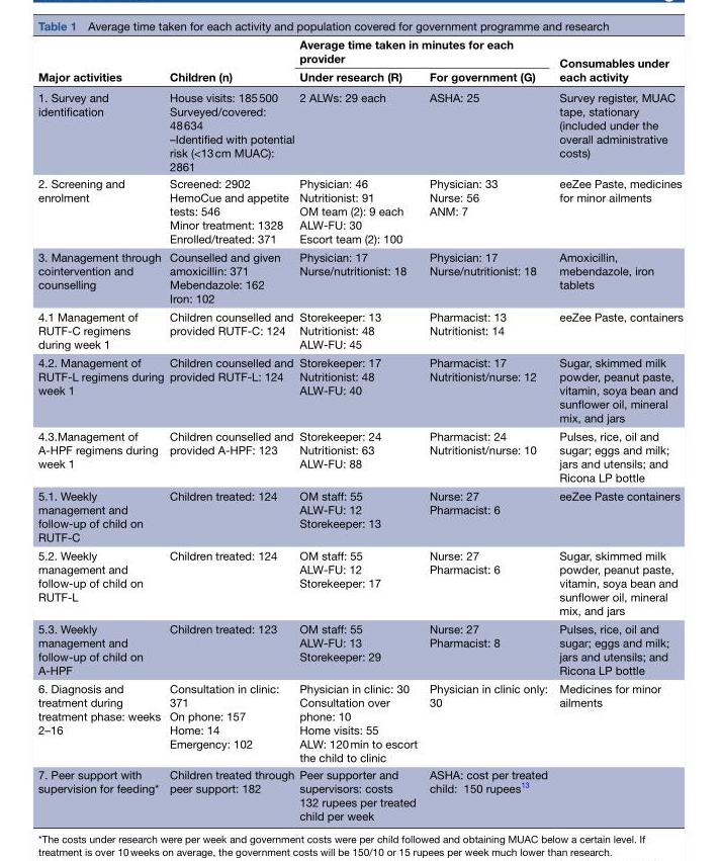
<table><thead><tr><td rowspan="2">Major activities</td><td rowspan="2">Children (n)</td><td colspan="2">Average time taken in minutes for each provider</td><td rowspan="2">Consumables under each activity</td></tr><tr><td>Under research (R)</td><td>For government (G)</td></tr></thead><tbody><tr><td>1. Survey and identification</td><td>House visits: 185 500 Surveyed/covered: 48 634 –Identified with potential risk (&lt;13 cm MUAC): 2861</td><td>2 ALWs: 29 each</td><td>ASHA: 25</td><td>Survey register, MUAC tape, stationary (included under the overall administrative costs)</td></tr><tr><td>2. Screening and enrolment</td><td>Screened: 2902 HemoCue and appetite tests: 546 Minor treatment: 1328 Enrolled/treated: 371</td><td>Physician: 46 Nutritionist: 91 OM team (2): 9 each ALW-FU: 30 Escort team (2): 100</td><td>Physician: 33 Nurse: 56 ANM: 7</td><td>eeZee Paste, medicines for minor ailments</td></tr><tr><td>3. Management through cointervention and counselling</td><td>Counselled and given amoxicillin: 371 Mebendazole: 162 Iron: 102</td><td>Physician: 17 Nurse/nutritionist: 18</td><td>Physician: 17 Nurse/nutritionist: 18</td><td>Amoxicillin, mebendazole, iron tablets</td></tr><tr><td>4.1 Management of RUTF-C regimens during week 1</td><td>Children counselled and provided RUTF-C: 124</td><td>Storekeeper: 13 Nutritionist: 48 ALW-FU: 45</td><td>Pharmacist: 13 Nutritionist: 14</td><td>eeZee Paste, containers</td></tr><tr><td>4.2. Management of RUTF-L regimens during week 1</td><td>Children counselled and provided RUTF-L: 124</td><td>Storekeeper: 17 Nutritionist: 48 ALW-FU: 40</td><td>Pharmacist: 17 Nutritionist/nurse: 12</td><td>Sugar, skimmed milk powder, peanut paste, vitamin, soya bean and sunflower oil, mineral mix, and jars</td></tr><tr><td>4.3.Management of A-HPF regimens during week 1</td><td>Children counselled and provided A-HPF: 123</td><td>Storekeeper: 24 Nutritionist: 63 ALW-FU: 88</td><td>Pharmacist: 24 Nutritionist/nurse: 10</td><td>Pulses, rice, oil and sugar; eggs and milk; jars and utensils; and Ricona LP bottle</td></tr><tr><td>5.1. Weekly management and follow-up of child on RUTF-C</td><td>Children treated: 124</td><td>OM staff: 55 ALW-FU: 12 Storekeeper: 13</td><td>Nurse: 27 Pharmacist: 6</td><td>eeZee Paste containers</td></tr><tr><td>5.2. Weekly management and follow-up of child on RUTF-L</td><td>Children treated: 124</td><td>OM staff: 55 ALW-FU: 12 Storekeeper: 17</td><td>Nurse: 27 Pharmacist: 6</td><td>Sugar, skimmed milk powder, peanut paste, vitamin, soya bean and sunflower oil, mineral mix, and jars</td></tr><tr><td>5.3. Weekly management and follow-up of child on A-HPF</td><td>Children treated: 123</td><td>OM staff: 55 ALW-FU: 13 Storekeeper: 29</td><td>Nurse: 27 Pharmacist: 8</td><td>Pulses, rice, oil and sugar; eggs and milk; jars and utensils; and Ricona LP bottle</td></tr><tr><td>6. Diagnosis and treatment during treatment phase: weeks 2–16</td><td>Consultation in clinic: 371 On phone: 157 Home: 14 Emergency: 102</td><td>Physician in clinic: 30 Consultation over phone: 10 Home visits: 55 ALW: 120 min to escort the child to clinic</td><td>Physician in clinic only: 30</td><td>Medicines for minor ailments</td></tr><tr><td>7. Peer support with supervision for feeding*</td><td>Children treated through peer support: 182</td><td>Peer supporter and supervisors: costs 132 rupees per treated child per week</td><td>ASHA: cost per treated child: 150 rupees<sup>13</sup></td><td></td></tr></tbody></table>